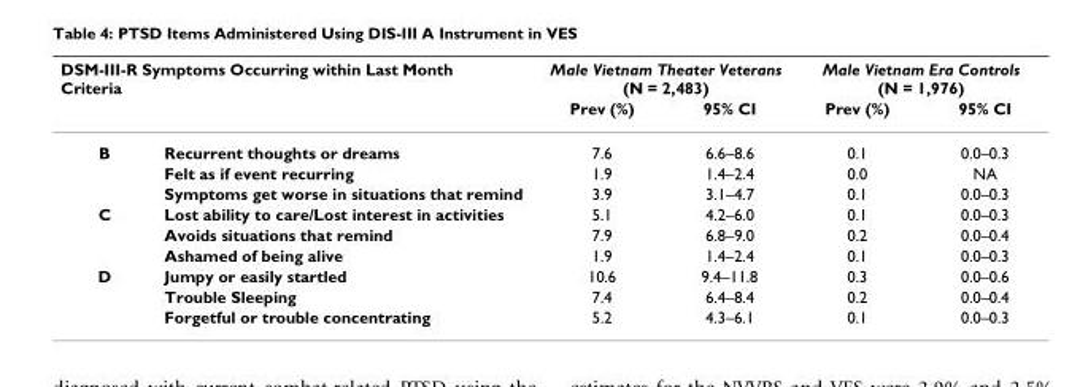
<table><thead><tr><td colspan="2">DSM-III-R Symptoms Occurring within Last Month Criteria</td><td colspan="2">Male Vietnam Theater Veterans (N = 2,483)</td><td colspan="2">Male Vietnam Era Controls (N = 1,976)</td></tr><tr><td></td><td></td><td>Prev (%)</td><td>95% CI</td><td>Prev (%)</td><td>95% CI</td></tr></thead><tbody><tr><td rowspan="3">B</td><td>Recurrent thoughts or dreams</td><td>7.6</td><td>6.6–8.6</td><td>0.1</td><td>0.0–0.3</td></tr><tr><td>Felt as if event recurring</td><td>1.9</td><td>1.4–2.4</td><td>0.0</td><td>NA</td></tr><tr><td>Symptoms get worse in situations that remind</td><td>3.9</td><td>3.1–4.7</td><td>0.1</td><td>0.0–0.3</td></tr><tr><td rowspan="3">C</td><td>Lost ability to care/Lost interest in activities</td><td>5.1</td><td>4.2–6.0</td><td>0.1</td><td>0.0–0.3</td></tr><tr><td>Avoids situations that remind</td><td>7.9</td><td>6.8–9.0</td><td>0.2</td><td>0.0–0.4</td></tr><tr><td>Ashamed of being alive</td><td>1.9</td><td>1.4–2.4</td><td>0.1</td><td>0.0–0.3</td></tr><tr><td rowspan="3">D</td><td>Jumpy or easily startled</td><td>10.6</td><td>9.4–11.8</td><td>0.3</td><td>0.0–0.6</td></tr><tr><td>Trouble Sleeping</td><td>7.4</td><td>6.4–8.4</td><td>0.2</td><td>0.0–0.4</td></tr><tr><td>Forgetful or trouble concentrating</td><td>5.2</td><td>4.3–6.1</td><td>0.1</td><td>0.0–0.3</td></tr></tbody></table>